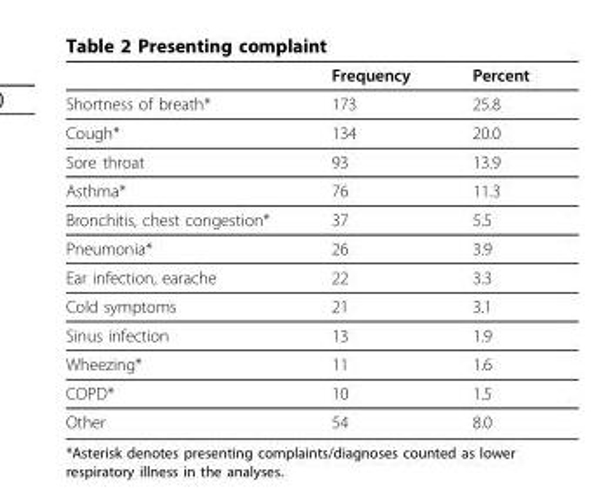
<table><thead><tr><td></td><td>Frequency</td><td>Percent</td></tr></thead><tbody><tr><td>Shortness of breath*</td><td>173</td><td>25.8</td></tr><tr><td>Cough*</td><td>134</td><td>20.0</td></tr><tr><td>Sore throat</td><td>93</td><td>13.9</td></tr><tr><td>Asthma*</td><td>76</td><td>11.3</td></tr><tr><td>Bronchitis, chest congestion*</td><td>37</td><td>5.5</td></tr><tr><td>Pneumonia*</td><td>26</td><td>3.9</td></tr><tr><td>Ear infection, earache</td><td>22</td><td>3.3</td></tr><tr><td>Cold symptoms</td><td>21</td><td>3.1</td></tr><tr><td>Sinus infection</td><td>13</td><td>1.9</td></tr><tr><td>Wheezing*</td><td>11</td><td>1.6</td></tr><tr><td>COPD*</td><td>10</td><td>1.5</td></tr><tr><td>Other</td><td>54</td><td>8.0</td></tr></tbody></table>